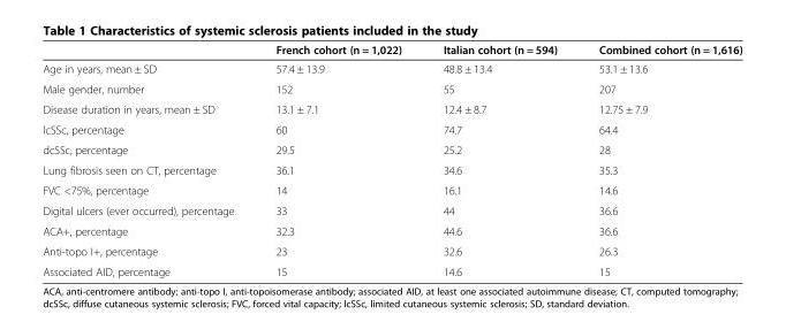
<table><thead><tr><td></td><td>French cohort (n = 1,022)</td><td>Italian cohort (n = 594)</td><td>Combined cohort (n = 1,616)</td></tr></thead><tbody><tr><td>Age in years, mean ± SD</td><td>57.4 ± 13.9</td><td>48.8 ± 13.4</td><td>53.1 ± 13.6</td></tr><tr><td>Male gender, number</td><td>152</td><td>55</td><td>207</td></tr><tr><td>Disease duration in years, mean ± SD</td><td>13.1 ± 7.1</td><td>12.4 ± 8.7</td><td>12.75 ± 7.9</td></tr><tr><td>lcSSc, percentage</td><td>60</td><td>74.7</td><td>64.4</td></tr><tr><td>dcSSc, percentage</td><td>29.5</td><td>25.2</td><td>28</td></tr><tr><td>Lung fibrosis seen on CT, percentage</td><td>36.1</td><td>34.6</td><td>35.3</td></tr><tr><td>FVC &lt;75%, percentage</td><td>14</td><td>16.1</td><td>14.6</td></tr><tr><td>Digital ulcers (ever occurred), percentage</td><td>33</td><td>44</td><td>36.6</td></tr><tr><td>ACA+, percentage</td><td>32.3</td><td>44.6</td><td>36.6</td></tr><tr><td>Anti-topo I+, percentage</td><td>23</td><td>32.6</td><td>26.3</td></tr><tr><td>Associated AID, percentage</td><td>15</td><td>14.6</td><td>15</td></tr></tbody></table>